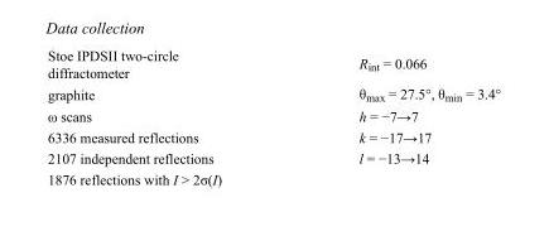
<table><tbody><tr><td>Stoe IPDSII two-circle diffractometer</td><td>R<sub>int</sub> = 0.066</td></tr><tr><td>graphite</td><td>θ<sub>max</sub> = 27.5°, θ<sub>min</sub> = 3.4°</td></tr><tr><td>ω scans</td><td>h = −7→7</td></tr><tr><td>6336 measured reflections</td><td>k = −17→17</td></tr><tr><td>2107 independent reflections</td><td>l = −13→14</td></tr><tr><td>1876 reflections with I &gt; 2σ(I)</td><td></td></tr></tbody></table>